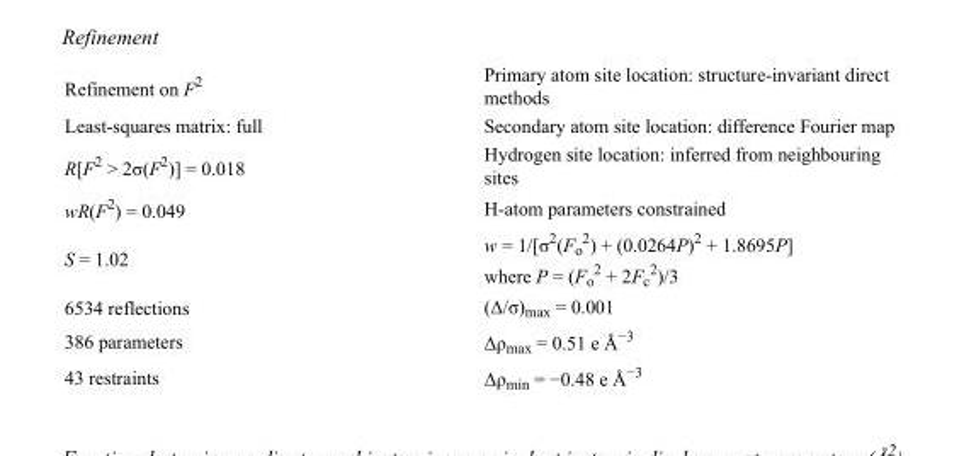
<table><tbody><tr><td>Refinement on F<sup>2</sup></td><td>Primary atom site location: structure-invariant direct methods</td></tr><tr><td>Least-squares matrix: full</td><td>Secondary atom site location: difference Fourier map</td></tr><tr><td>R[F<sup>2</sup> &gt; 2σ(F<sup>2</sup>)] = 0.018</td><td>Hydrogen site location: inferred from neighbouring sites</td></tr><tr><td>wR(F<sup>2</sup>) = 0.049</td><td>H-atom parameters constrained</td></tr><tr><td>S = 1.02</td><td>w = 1/[σ<sup>2</sup>(F<sub>o</sub> <sup>2</sup>) + (0.0264P)<sup>2</sup> + 1.8695P] where P = (F<sub>o</sub> <sup>2</sup> + 2F<sub>c</sub> <sup>2</sup>)/3</td></tr><tr><td>6534 reflections</td><td>(Δ/σ)<sub>max</sub> = 0.001</td></tr><tr><td>386 parameters</td><td>Δρ<sub>max</sub> = 0.51 e Å<sup>−3</sup></td></tr><tr><td>43 restraints</td><td>Δρ<sub>min</sub> = −0.48 e Å<sup>−3</sup></td></tr></tbody></table>